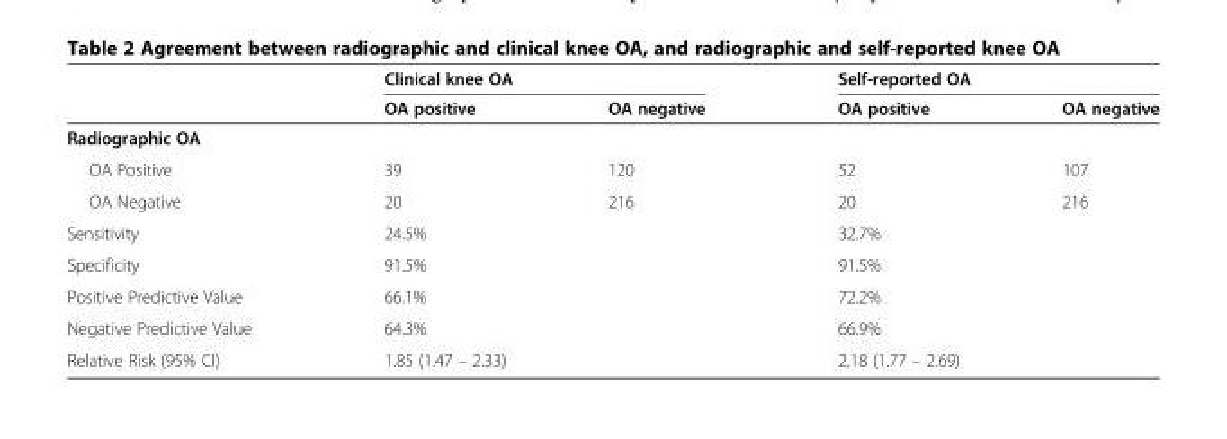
<table><thead><tr><td rowspan="2"></td><td colspan="2">Clinical knee OA</td><td colspan="2">Self-reported OA</td></tr><tr><td>OA positive</td><td>OA negative</td><td>OA positive</td><td>OA negative</td></tr></thead><tbody><tr><td colspan="5">Radiographic OA</td></tr><tr><td>OA Positive</td><td>39</td><td>120</td><td>52</td><td>107</td></tr><tr><td>OA Negative</td><td>20</td><td>216</td><td>20</td><td>216</td></tr><tr><td>Sensitivity</td><td colspan="2">24.5%</td><td colspan="2">32.7%</td></tr><tr><td>Specificity</td><td colspan="2">91.5%</td><td colspan="2">91.5%</td></tr><tr><td>Positive Predictive Value</td><td colspan="2">66.1%</td><td colspan="2">72.2%</td></tr><tr><td>Negative Predictive Value</td><td colspan="2">64.3%</td><td colspan="2">66.9%</td></tr><tr><td>Relative Risk (95% CI)</td><td colspan="2">1.85 (1.47 – 2.33)</td><td colspan="2">2.18 (1.77 – 2.69)</td></tr></tbody></table>